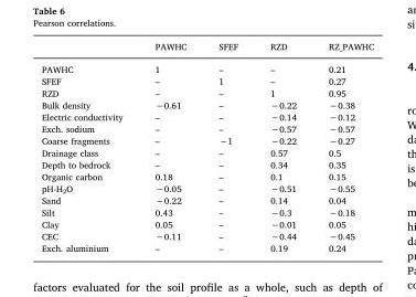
<table><thead><tr><td></td><td>PAWHC</td><td>SFEF</td><td>RZD</td><td>RZ_PAWHC</td></tr></thead><tbody><tr><td>PAWHC</td><td>1</td><td>–</td><td>–</td><td>0.21</td></tr><tr><td>SFEF</td><td>–</td><td>1</td><td>–</td><td>0.27</td></tr><tr><td>RZD</td><td>–</td><td>–</td><td>1</td><td>0.95</td></tr><tr><td>Bulk density</td><td>−0.61</td><td>–</td><td>−0.22</td><td>−0.38</td></tr><tr><td>Electric conductivity</td><td>–</td><td>–</td><td>−0.14</td><td>−0.12</td></tr><tr><td>Exch. sodium</td><td>–</td><td>–</td><td>−0.57</td><td>−0.57</td></tr><tr><td>Coarse fragments</td><td>–</td><td>−1</td><td>−0.22</td><td>−0.27</td></tr><tr><td>Drainage class</td><td>–</td><td>–</td><td>0.57</td><td>0.5</td></tr><tr><td>Depth to bedrock</td><td>–</td><td>–</td><td>0.34</td><td>0.35</td></tr><tr><td>Organic carbon</td><td>0.18</td><td>–</td><td>0.1</td><td>0.15</td></tr><tr><td>pH-H<sub>2</sub>O</td><td>−0.05</td><td>–</td><td>−0.51</td><td>−0.55</td></tr><tr><td>Sand</td><td>−0.22</td><td>–</td><td>0.14</td><td>0.04</td></tr><tr><td>Silt</td><td>0.43</td><td>–</td><td>−0.3</td><td>−0.18</td></tr><tr><td>Clay</td><td>0.05</td><td>–</td><td>−0.01</td><td>0.05</td></tr><tr><td>CEC</td><td>−0.11</td><td>–</td><td>−0.44</td><td>−0.45</td></tr><tr><td>Exch. aluminium</td><td>–</td><td>–</td><td>0.19</td><td>0.24</td></tr></tbody></table>